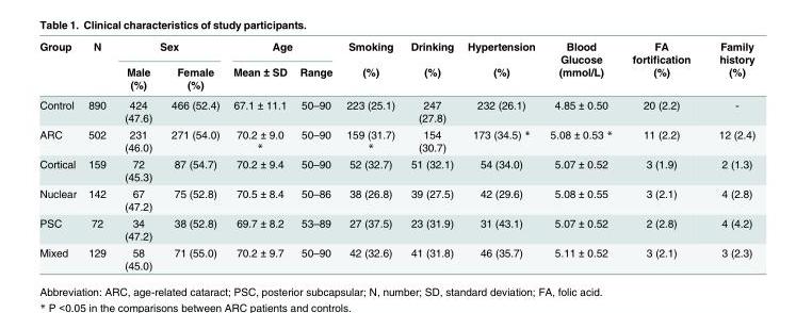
<table><thead><tr><td rowspan="2">Group</td><td rowspan="2">N</td><td colspan="2">Sex</td><td colspan="2">Age</td><td rowspan="2">Smoking (%)</td><td rowspan="2">Drinking (%)</td><td rowspan="2">Hypertension (%)</td><td rowspan="2">Blood Glucose (mmol/L)</td><td rowspan="2">FA fortification (%)</td><td rowspan="2">Family history (%)</td></tr><tr><td>Male (%)</td><td>Female (%)</td><td>Mean ± SD</td><td>Range</td></tr></thead><tbody><tr><td>Control</td><td>890</td><td>424 (47.6)</td><td>466 (52.4)</td><td>67.1 ± 11.1</td><td>50–90</td><td>223 (25.1)</td><td>247 (27.8)</td><td>232 (26.1)</td><td>4.85 ± 0.50</td><td>20 (2.2)</td><td>-</td></tr><tr><td>ARC</td><td>502</td><td>231 (46.0)</td><td>271 (54.0)</td><td>70.2 ± 9.0 *</td><td>50–90</td><td>159 (31.7) *</td><td>154 (30.7)</td><td>173 (34.5) *</td><td>5.08 ± 0.53 *</td><td>11 (2.2)</td><td>12 (2.4)</td></tr><tr><td>Cortical</td><td>159</td><td>72 (45.3)</td><td>87 (54.7)</td><td>70.2 ± 9.4</td><td>50–90</td><td>52 (32.7)</td><td>51 (32.1)</td><td>54 (34.0)</td><td>5.07 ± 0.52</td><td>3 (1.9)</td><td>2 (1.3)</td></tr><tr><td>Nuclear</td><td>142</td><td>67 (47.2)</td><td>75 (52.8)</td><td>70.5 ± 8.4</td><td>50–86</td><td>38 (26.8)</td><td>39 (27.5)</td><td>42 (29.6)</td><td>5.08 ± 0.55</td><td>3 (2.1)</td><td>4 (2.8)</td></tr><tr><td>PSC</td><td>72</td><td>34 (47.2)</td><td>38 (52.8)</td><td>69.7 ± 8.2</td><td>53–89</td><td>27 (37.5)</td><td>23 (31.9)</td><td>31 (43.1)</td><td>5.07 ± 0.52</td><td>2 (2.8)</td><td>4 (4.2)</td></tr><tr><td>Mixed</td><td>129</td><td>58 (45.0)</td><td>71 (55.0)</td><td>70.2 ± 9.7</td><td>50–90</td><td>42 (32.6)</td><td>41 (31.8)</td><td>46 (35.7)</td><td>5.11 ± 0.52</td><td>3 (2.1)</td><td>3 (2.3)</td></tr></tbody></table>